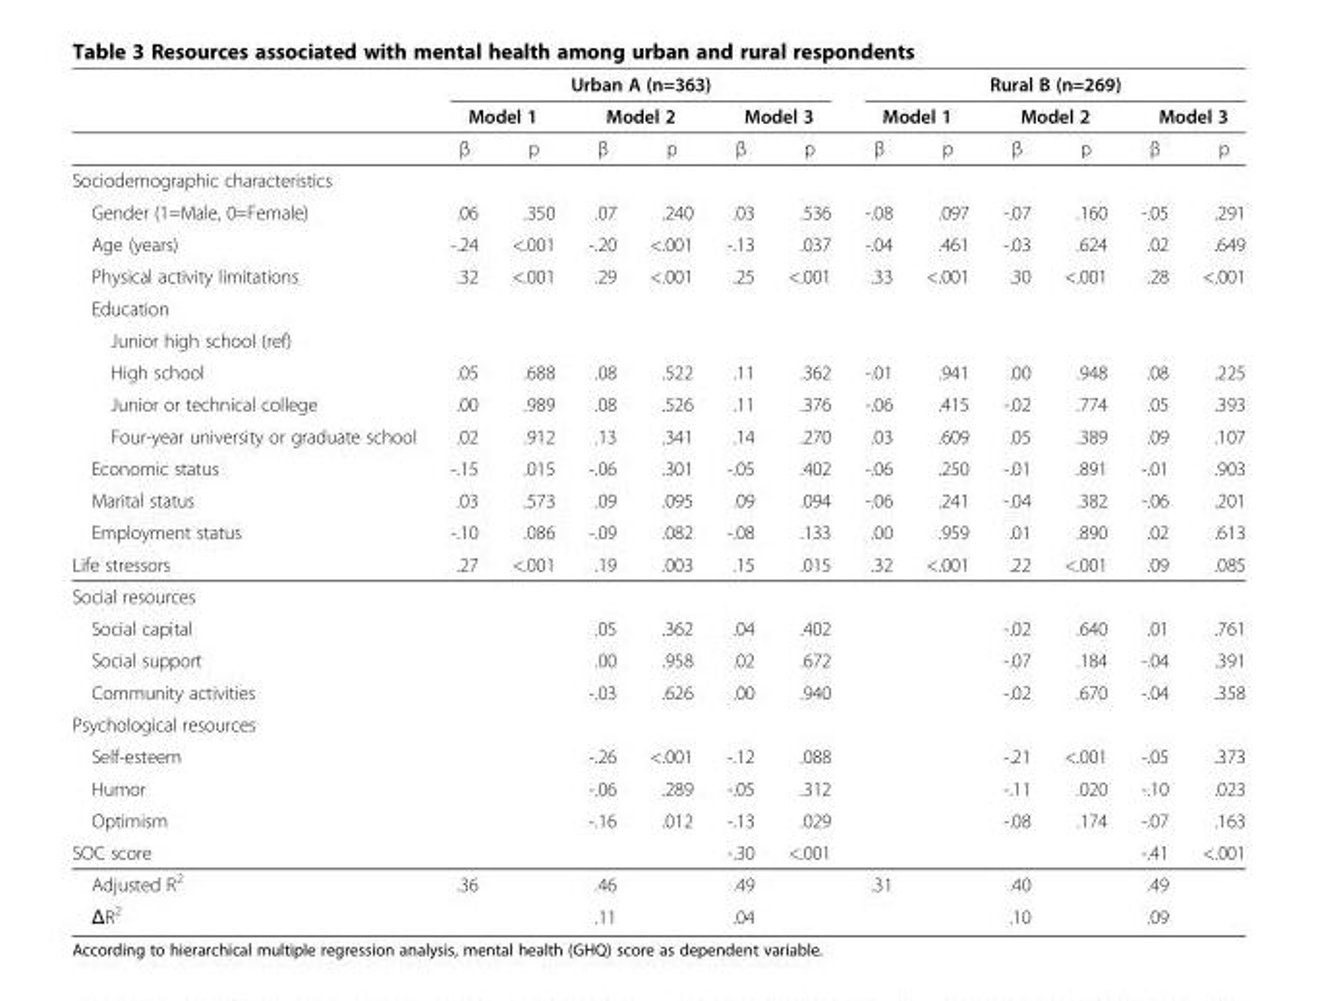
<table><thead><tr><td rowspan="3"></td><td colspan="6">Urban A (n=363)</td><td colspan="6">Rural B (n=269)</td></tr><tr><td colspan="2">Model 1</td><td colspan="2">Model 2</td><td colspan="2">Model 3</td><td colspan="2">Model 1</td><td colspan="2">Model 2</td><td colspan="2">Model 3</td></tr><tr><td>β</td><td>p</td><td>β</td><td>p</td><td>β</td><td>p</td><td>β</td><td>p</td><td>β</td><td>p</td><td>β</td><td>p</td></tr></thead><tbody><tr><td colspan="13">Sociodemographic characteristics</td></tr><tr><td>Gender (1=Male, 0=Female)</td><td>.06</td><td>.350</td><td>.07</td><td>.240</td><td>.03</td><td>.536</td><td>-.08</td><td>.097</td><td>-.07</td><td>.160</td><td>-.05</td><td>.291</td></tr><tr><td>Age (years)</td><td>-.24</td><td>&lt;.001</td><td>-.20</td><td>&lt;.001</td><td>-.13</td><td>.037</td><td>-.04</td><td>.461</td><td>-.03</td><td>.624</td><td>.02</td><td>.649</td></tr><tr><td>Physical activity limitations</td><td>.32</td><td>&lt;.001</td><td>.29</td><td>&lt;.001</td><td>.25</td><td>&lt;.001</td><td>.33</td><td>&lt;.001</td><td>.30</td><td>&lt;.001</td><td>.28</td><td>&lt;.001</td></tr><tr><td colspan="13">Education</td></tr><tr><td colspan="13">Junior high school (ref)</td></tr><tr><td>High school</td><td>.05</td><td>.688</td><td>.08</td><td>.522</td><td>.11</td><td>.362</td><td>-.01</td><td>.941</td><td>.00</td><td>.948</td><td>.08</td><td>.225</td></tr><tr><td>Junior or technical college</td><td>.00</td><td>.989</td><td>.08</td><td>.526</td><td>.11</td><td>.376</td><td>-.06</td><td>.415</td><td>-.02</td><td>.774</td><td>.05</td><td>.393</td></tr><tr><td>Four-year university or graduate school</td><td>.02</td><td>.912</td><td>.13</td><td>.341</td><td>.14</td><td>.270</td><td>.03</td><td>.609</td><td>.05</td><td>.389</td><td>.09</td><td>.107</td></tr><tr><td>Economic status</td><td>-.15</td><td>.015</td><td>-.06</td><td>.301</td><td>-.05</td><td>.402</td><td>-.06</td><td>.250</td><td>-.01</td><td>.891</td><td>-.01</td><td>.903</td></tr><tr><td>Marital status</td><td>.03</td><td>.573</td><td>.09</td><td>.095</td><td>.09</td><td>.094</td><td>-.06</td><td>.241</td><td>-.04</td><td>.382</td><td>-.06</td><td>.201</td></tr><tr><td>Employment status</td><td>-.10</td><td>.086</td><td>-.09</td><td>.082</td><td>-.08</td><td>.133</td><td>.00</td><td>.959</td><td>.01</td><td>.890</td><td>.02</td><td>.613</td></tr><tr><td>Life stressors</td><td>.27</td><td>&lt;.001</td><td>.19</td><td>.003</td><td>.15</td><td>.015</td><td>.32</td><td>&lt;.001</td><td>.22</td><td>&lt;.001</td><td>.09</td><td>.085</td></tr><tr><td colspan="13">Social resources</td></tr><tr><td>Social capital</td><td></td><td></td><td>.05</td><td>.362</td><td>.04</td><td>.402</td><td></td><td></td><td>-.02</td><td>.640</td><td>.01</td><td>.761</td></tr><tr><td>Social support</td><td></td><td></td><td>.00</td><td>.958</td><td>.02</td><td>.672</td><td></td><td></td><td>-.07</td><td>.184</td><td>-.04</td><td>.391</td></tr><tr><td>Community activities</td><td></td><td></td><td>-.03</td><td>.626</td><td>.00</td><td>.940</td><td></td><td></td><td>-.02</td><td>.670</td><td>-.04</td><td>.358</td></tr><tr><td colspan="13">Psychological resources</td></tr><tr><td>Self-esteem</td><td></td><td></td><td>-.26</td><td>&lt;.001</td><td>-.12</td><td>.088</td><td></td><td></td><td>-.21</td><td>&lt;.001</td><td>-.05</td><td>.373</td></tr><tr><td>Humor</td><td></td><td></td><td>-.06</td><td>.289</td><td>-.05</td><td>.312</td><td></td><td></td><td>-.11</td><td>.020</td><td>-.10</td><td>.023</td></tr><tr><td>Optimism</td><td></td><td></td><td>-.16</td><td>.012</td><td>-.13</td><td>.029</td><td></td><td></td><td>-.08</td><td>.174</td><td>-.07</td><td>.163</td></tr><tr><td>SOC score</td><td></td><td></td><td></td><td></td><td>-.30</td><td>&lt;.001</td><td></td><td></td><td></td><td></td><td>-.41</td><td>&lt;.001</td></tr><tr><td>Adjusted R<sup>2</sup></td><td>.36</td><td></td><td>.46</td><td></td><td>.49</td><td></td><td>.31</td><td></td><td>.40</td><td></td><td>.49</td><td></td></tr><tr><td>ΔR<sup>2</sup></td><td></td><td></td><td>.11</td><td></td><td>.04</td><td></td><td></td><td></td><td>.10</td><td></td><td>.09</td><td></td></tr></tbody></table>